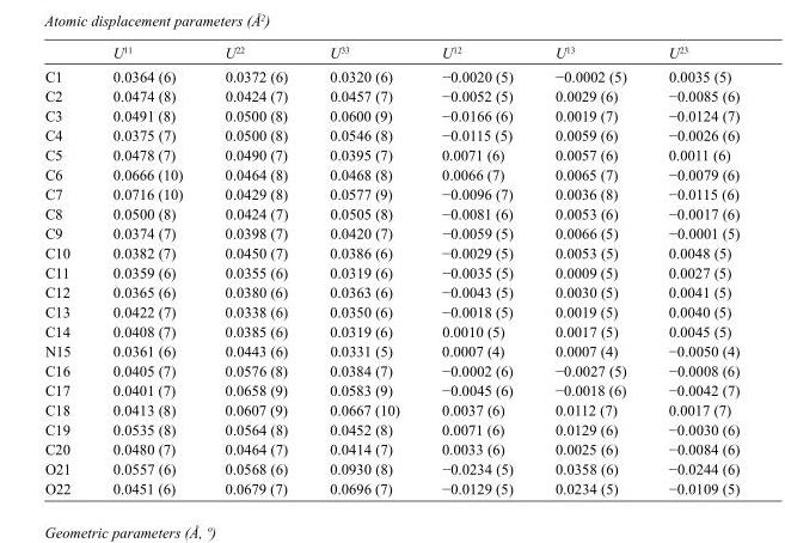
<table><thead><tr><td></td><td>U<sup>11</sup></td><td>U<sup>22</sup></td><td>U<sup>33</sup></td><td>U<sup>12</sup></td><td>U<sup>13</sup></td><td>U<sup>23</sup></td></tr></thead><tbody><tr><td>C1</td><td>0.0364 (6)</td><td>0.0372 (6)</td><td>0.0320 (6)</td><td>−0.0020 (5)</td><td>−0.0002 (5)</td><td>0.0035 (5)</td></tr><tr><td>C2</td><td>0.0474 (8)</td><td>0.0424 (7)</td><td>0.0457 (7)</td><td>−0.0052 (5)</td><td>0.0029 (6)</td><td>−0.0085 (6)</td></tr><tr><td>C3</td><td>0.0491 (8)</td><td>0.0500 (8)</td><td>0.0600 (9)</td><td>−0.0166 (6)</td><td>0.0019 (7)</td><td>−0.0124 (7)</td></tr><tr><td>C4</td><td>0.0375 (7)</td><td>0.0500 (8)</td><td>0.0546 (8)</td><td>−0.0115 (5)</td><td>0.0059 (6)</td><td>−0.0026 (6)</td></tr><tr><td>C5</td><td>0.0478 (7)</td><td>0.0490 (7)</td><td>0.0395 (7)</td><td>0.0071 (6)</td><td>0.0057 (6)</td><td>0.0011 (6)</td></tr><tr><td>C6</td><td>0.0666 (10)</td><td>0.0464 (8)</td><td>0.0468 (8)</td><td>0.0066 (7)</td><td>0.0065 (7)</td><td>−0.0079 (6)</td></tr><tr><td>C7</td><td>0.0716 (10)</td><td>0.0429 (8)</td><td>0.0577 (9)</td><td>−0.0096 (7)</td><td>0.0036 (8)</td><td>−0.0115 (6)</td></tr><tr><td>C8</td><td>0.0500 (8)</td><td>0.0424 (7)</td><td>0.0505 (8)</td><td>−0.0081 (6)</td><td>0.0053 (6)</td><td>−0.0017 (6)</td></tr><tr><td>C9</td><td>0.0374 (7)</td><td>0.0398 (7)</td><td>0.0420 (7)</td><td>−0.0059 (5)</td><td>0.0066 (5)</td><td>−0.0001 (5)</td></tr><tr><td>C10</td><td>0.0382 (7)</td><td>0.0450 (7)</td><td>0.0386 (6)</td><td>−0.0029 (5)</td><td>0.0053 (5)</td><td>0.0048 (5)</td></tr><tr><td>C11</td><td>0.0359 (6)</td><td>0.0355 (6)</td><td>0.0319 (6)</td><td>−0.0035 (5)</td><td>0.0009 (5)</td><td>0.0027 (5)</td></tr><tr><td>C12</td><td>0.0365 (6)</td><td>0.0380 (6)</td><td>0.0363 (6)</td><td>−0.0043 (5)</td><td>0.0030 (5)</td><td>0.0041 (5)</td></tr><tr><td>C13</td><td>0.0422 (7)</td><td>0.0338 (6)</td><td>0.0350 (6)</td><td>−0.0018 (5)</td><td>0.0019 (5)</td><td>0.0040 (5)</td></tr><tr><td>C14</td><td>0.0408 (7)</td><td>0.0385 (6)</td><td>0.0319 (6)</td><td>0.0010 (5)</td><td>0.0017 (5)</td><td>0.0045 (5)</td></tr><tr><td>N15</td><td>0.0361 (6)</td><td>0.0443 (6)</td><td>0.0331 (5)</td><td>0.0007 (4)</td><td>0.0007 (4)</td><td>−0.0050 (4)</td></tr><tr><td>C16</td><td>0.0405 (7)</td><td>0.0576 (8)</td><td>0.0384 (7)</td><td>−0.0002 (6)</td><td>−0.0027 (5)</td><td>−0.0008 (6)</td></tr><tr><td>C17</td><td>0.0401 (7)</td><td>0.0658 (9)</td><td>0.0583 (9)</td><td>−0.0045 (6)</td><td>−0.0018 (6)</td><td>−0.0042 (7)</td></tr><tr><td>C18</td><td>0.0413 (8)</td><td>0.0607 (9)</td><td>0.0667 (10)</td><td>0.0037 (6)</td><td>0.0112 (7)</td><td>0.0017 (7)</td></tr><tr><td>C19</td><td>0.0535 (8)</td><td>0.0564 (8)</td><td>0.0452 (8)</td><td>0.0071 (6)</td><td>0.0129 (6)</td><td>−0.0030 (6)</td></tr><tr><td>C20</td><td>0.0480 (7)</td><td>0.0464 (7)</td><td>0.0414 (7)</td><td>0.0033 (6)</td><td>0.0025 (6)</td><td>−0.0084 (6)</td></tr><tr><td>O21</td><td>0.0557 (6)</td><td>0.0568 (6)</td><td>0.0930 (8)</td><td>−0.0234 (5)</td><td>0.0358 (6)</td><td>−0.0244 (6)</td></tr><tr><td>O22</td><td>0.0451 (6)</td><td>0.0679 (7)</td><td>0.0696 (7)</td><td>−0.0129 (5)</td><td>0.0234 (5)</td><td>−0.0109 (5)</td></tr></tbody></table>